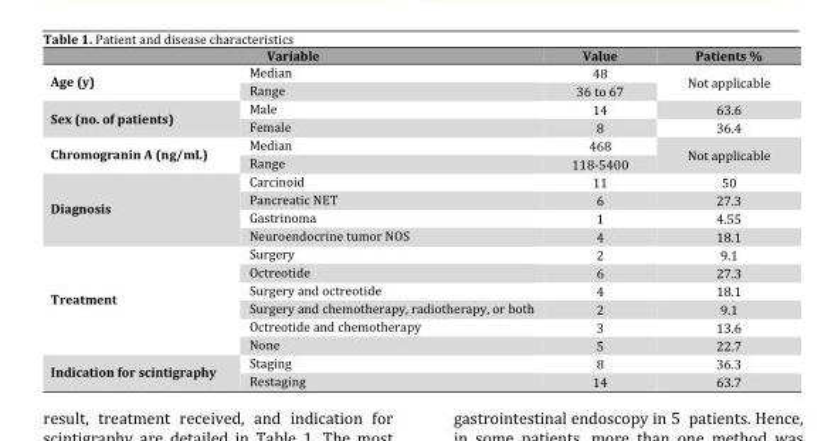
<table><thead><tr><td></td><td>Variable</td><td>Value</td><td>Patients %</td></tr></thead><tbody><tr><td rowspan="2">Age (y)</td><td>Median</td><td>48</td><td rowspan="2">Not applicable</td></tr><tr><td>Range</td><td>36 to 67</td></tr><tr><td rowspan="2">Sex (no. of patients)</td><td>Male</td><td>14</td><td>63.6</td></tr><tr><td>Female</td><td>8</td><td>36.4</td></tr><tr><td rowspan="2">Chromogranin A (ng/mL)</td><td>Median</td><td>468</td><td rowspan="2">Not applicable</td></tr><tr><td>Range</td><td>118-5400</td></tr><tr><td rowspan="4">Diagnosis</td><td>Carcinoid</td><td>11</td><td>50</td></tr><tr><td>Pancreatic NET</td><td>6</td><td>27.3</td></tr><tr><td>Gastrinoma</td><td>1</td><td>4.55</td></tr><tr><td>Neuroendocrine tumor NOS</td><td>4</td><td>18.1</td></tr><tr><td rowspan="6">Treatment</td><td>Surgery</td><td>2</td><td>9.1</td></tr><tr><td>Octreotide</td><td>6</td><td>27.3</td></tr><tr><td>Surgery and octreotide</td><td>4</td><td>18.1</td></tr><tr><td>Surgery and chemotherapy, radiotherapy, or both</td><td>2</td><td>9.1</td></tr><tr><td>Octreotide and chemotherapy</td><td>3</td><td>13.6</td></tr><tr><td>None</td><td>5</td><td>22.7</td></tr><tr><td rowspan="2">Indication for scintigraphy</td><td>Staging</td><td>8</td><td>36.3</td></tr><tr><td>Restaging</td><td>14</td><td>63.7</td></tr></tbody></table>